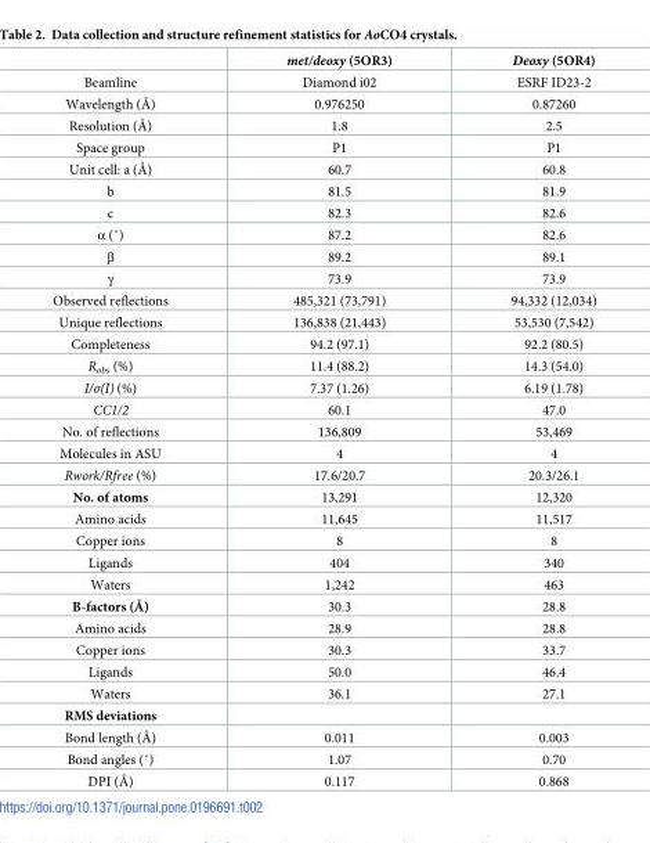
<table><thead><tr><td></td><td>met/deoxy (5OR3)</td><td>Deoxy (5OR4)</td></tr></thead><tbody><tr><td>Beamline</td><td>Diamond i02</td><td>ESRF ID23-2</td></tr><tr><td>Wavelength (Å)</td><td>0.976250</td><td>0.87260</td></tr><tr><td>Resolution (Å)</td><td>1.8</td><td>2.5</td></tr><tr><td>Space group</td><td>P1</td><td>P1</td></tr><tr><td>Unit cell: a (Å)</td><td>60.7</td><td>60.8</td></tr><tr><td>b</td><td>81.5</td><td>81.9</td></tr><tr><td>c</td><td>82.3</td><td>82.6</td></tr><tr><td>α (˚)</td><td>87.2</td><td>82.6</td></tr><tr><td>β</td><td>89.2</td><td>89.1</td></tr><tr><td>γ</td><td>73.9</td><td>73.9</td></tr><tr><td>Observed reflections</td><td>485,321 (73,791)</td><td>94,332 (12,034)</td></tr><tr><td>Unique reflections</td><td>136,838 (21,443)</td><td>53,530 (7,542)</td></tr><tr><td>Completeness</td><td>94.2 (97.1)</td><td>92.2 (80.5)</td></tr><tr><td>R<sub>obs</sub> (%)</td><td>11.4 (88.2)</td><td>14.3 (54.0)</td></tr><tr><td>I/σ(I) (%)</td><td>7.37 (1.26)</td><td>6.19 (1.78)</td></tr><tr><td>CC1/2</td><td>60.1</td><td>47.0</td></tr><tr><td>No. of reflections</td><td>136,809</td><td>53,469</td></tr><tr><td>Molecules in ASU</td><td>4</td><td>4</td></tr><tr><td>Rwork/Rfree (%)</td><td>17.6/20.7</td><td>20.3/26.1</td></tr><tr><td>No. of atoms</td><td>13,291</td><td>12,320</td></tr><tr><td>Amino acids</td><td>11,645</td><td>11,517</td></tr><tr><td>Copper ions</td><td>8</td><td>8</td></tr><tr><td>Ligands</td><td>404</td><td>340</td></tr><tr><td>Waters</td><td>1,242</td><td>463</td></tr><tr><td>B-factors (Å)</td><td>30.3</td><td>28.8</td></tr><tr><td>Amino acids</td><td>28.9</td><td>28.8</td></tr><tr><td>Copper ions</td><td>30.3</td><td>33.7</td></tr><tr><td>Ligands</td><td>50.0</td><td>46.4</td></tr><tr><td>Waters</td><td>36.1</td><td>27.1</td></tr><tr><td colspan="3">RMS deviations</td></tr><tr><td>Bond length (Å)</td><td>0.011</td><td>0.003</td></tr><tr><td>Bond angles (˚)</td><td>1.07</td><td>0.70</td></tr><tr><td>DPI (Å)</td><td>0.117</td><td>0.868</td></tr></tbody></table>